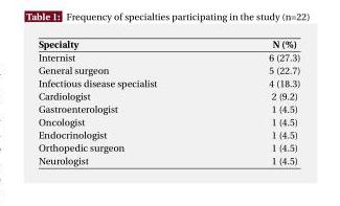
<table><thead><tr><td>Specialty</td><td>N (%)</td></tr></thead><tbody><tr><td>Internist</td><td>6 (27.3)</td></tr><tr><td>General surgeon</td><td>5 (22.7)</td></tr><tr><td>Infectious disease specialist</td><td>4 (18.3)</td></tr><tr><td>Cardiologist</td><td>2 (9.2)</td></tr><tr><td>Gastroenterologist</td><td>1 (4.5)</td></tr><tr><td>Oncologist</td><td>1 (4.5)</td></tr><tr><td>Endocrinologist</td><td>1 (4.5)</td></tr><tr><td>Orthopedic surgeon</td><td>1 (4.5)</td></tr><tr><td>Neurologist</td><td>1 (4.5)</td></tr></tbody></table>